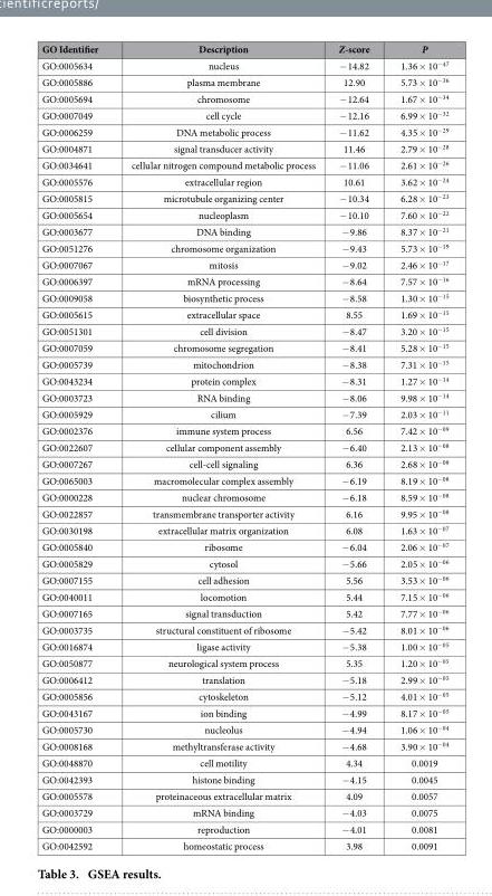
<table><thead><tr><td>GO Identifier</td><td>Description</td><td>Z-score</td><td>P</td></tr></thead><tbody><tr><td>GO:0005634</td><td>nucleus</td><td>− 14.82</td><td>1.36 × 10<sup>−47</sup></td></tr><tr><td>GO:0005886</td><td>plasma membrane</td><td>12.90</td><td>5.73 × 10<sup>−36</sup></td></tr><tr><td>GO:0005694</td><td>chromosome</td><td>− 12.64</td><td>1.67 × 10<sup>−34</sup></td></tr><tr><td>GO:0007049</td><td>cell cycle</td><td>− 12.16</td><td>6.99 × 10<sup>−32</sup></td></tr><tr><td>GO:0006259</td><td>DNA metabolic process</td><td>− 11.62</td><td>4.35 × 10<sup>−29</sup></td></tr><tr><td>GO:0004871</td><td>signal transducer activity</td><td>11.46</td><td>2.79 × 10<sup>−28</sup></td></tr><tr><td>GO:0034641</td><td>cellular nitrogen compound metabolic process</td><td>− 11.06</td><td>2.61 × 10<sup>−26</sup></td></tr><tr><td>GO:0005576</td><td>extracellular region</td><td>10.61</td><td>3.62 × 10<sup>−24</sup></td></tr><tr><td>GO:0005815</td><td>microtubule organizing center</td><td>− 10.34</td><td>6.28 × 10<sup>−23</sup></td></tr><tr><td>GO:0005654</td><td>nucleoplasm</td><td>− 10.10</td><td>7.60 × 10<sup>−22</sup></td></tr><tr><td>GO:0003677</td><td>DNA binding</td><td>− 9.86</td><td>8.37 × 10<sup>−21</sup></td></tr><tr><td>GO:0051276</td><td>chromosome organization</td><td>− 9.43</td><td>5.73 × 10<sup>−19</sup></td></tr><tr><td>GO:0007067</td><td>mitosis</td><td>− 9.02</td><td>2.46 × 10<sup>−17</sup></td></tr><tr><td>GO:0006397</td><td>mRNA processing</td><td>− 8.64</td><td>7.57 × 10<sup>−16</sup></td></tr><tr><td>GO:0009058</td><td>biosynthetic process</td><td>− 8.58</td><td>1.30 × 10<sup>−15</sup></td></tr><tr><td>GO:0005615</td><td>extracellular space</td><td>8.55</td><td>1.69 × 10<sup>−15</sup></td></tr><tr><td>GO:0051301</td><td>cell division</td><td>− 8.47</td><td>3.20 × 10<sup>−15</sup></td></tr><tr><td>GO:0007059</td><td>chromosome segregation</td><td>− 8.41</td><td>5.28 × 10<sup>−15</sup></td></tr><tr><td>GO:0005739</td><td>mitochondrion</td><td>− 8.38</td><td>7.31 × 10<sup>−15</sup></td></tr><tr><td>GO:0043234</td><td>protein complex</td><td>− 8.31</td><td>1.27 × 10<sup>−14</sup></td></tr><tr><td>GO:0003723</td><td>RNA binding</td><td>− 8.06</td><td>9.98 × 10<sup>−14</sup></td></tr><tr><td>GO:0005929</td><td>cilium</td><td>− 7.39</td><td>2.03 × 10<sup>−11</sup></td></tr><tr><td>GO:0002376</td><td>immune system process</td><td>6.56</td><td>7.42 × 10<sup>−09</sup></td></tr><tr><td>GO:0022607</td><td>cellular component assembly</td><td>− 6.40</td><td>2.13 × 10<sup>−08</sup></td></tr><tr><td>GO:0007267</td><td>cell-cell signaling</td><td>6.36</td><td>2.68 × 10<sup>−08</sup></td></tr><tr><td>GO:0065003</td><td>macromolecular complex assembly</td><td>− 6.19</td><td>8.19 × 10<sup>−08</sup></td></tr><tr><td>GO:0000228</td><td>nuclear chromosome</td><td>− 6.18</td><td>8.59 × 10<sup>−08</sup></td></tr><tr><td>GO:0022857</td><td>transmembrane transporter activity</td><td>6.16</td><td>9.95 × 10<sup>−08</sup></td></tr><tr><td>GO:0030198</td><td>extracellular matrix organization</td><td>6.08</td><td>1.63 × 10<sup>−07</sup></td></tr><tr><td>GO:0005840</td><td>ribosome</td><td>− 6.04</td><td>2.06 × 10<sup>−07</sup></td></tr><tr><td>GO:0005829</td><td>cytosol</td><td>− 5.66</td><td>2.05 × 10<sup>−06</sup></td></tr><tr><td>GO:0007155</td><td>cell adhesion</td><td>5.56</td><td>3.53 × 10<sup>−06</sup></td></tr><tr><td>GO:0040011</td><td>locomotion</td><td>5.44</td><td>7.15 × 10<sup>−06</sup></td></tr><tr><td>GO:0007165</td><td>signal transduction</td><td>5.42</td><td>7.77 × 10<sup>−06</sup></td></tr><tr><td>GO:0003735</td><td>structural constituent of ribosome</td><td>− 5.42</td><td>8.01 × 10<sup>−06</sup></td></tr><tr><td>GO:0016874</td><td>ligase activity</td><td>− 5.38</td><td>1.00 × 10<sup>−05</sup></td></tr><tr><td>GO:0050877</td><td>neurological system process</td><td>5.35</td><td>1.20 × 10<sup>−05</sup></td></tr><tr><td>GO:0006412</td><td>translation</td><td>− 5.18</td><td>2.99 × 10<sup>−05</sup></td></tr><tr><td>GO:0005856</td><td>cytoskeleton</td><td>− 5.12</td><td>4.01 × 10<sup>−05</sup></td></tr><tr><td>GO:0043167</td><td>ion binding</td><td>− 4.99</td><td>8.17 × 10<sup>−05</sup></td></tr><tr><td>GO:0005730</td><td>nucleolus</td><td>− 4.94</td><td>1.06 × 10<sup>−04</sup></td></tr><tr><td>GO:0008168</td><td>methyltransferase activity</td><td>− 4.68</td><td>3.90 × 10<sup>−04</sup></td></tr><tr><td>GO:0048870</td><td>cell motility</td><td>4.34</td><td>0.0019</td></tr><tr><td>GO:0042393</td><td>histone binding</td><td>− 4.15</td><td>0.0045</td></tr><tr><td>GO:0005578</td><td>proteinaceous extracellular matrix</td><td>4.09</td><td>0.0057</td></tr><tr><td>GO:0003729</td><td>mRNA binding</td><td>− 4.03</td><td>0.0075</td></tr><tr><td>GO:0000003</td><td>reproduction</td><td>− 4.01</td><td>0.0081</td></tr><tr><td>GO:0042592</td><td>homeostatic process</td><td>3.98</td><td>0.0091</td></tr></tbody></table>